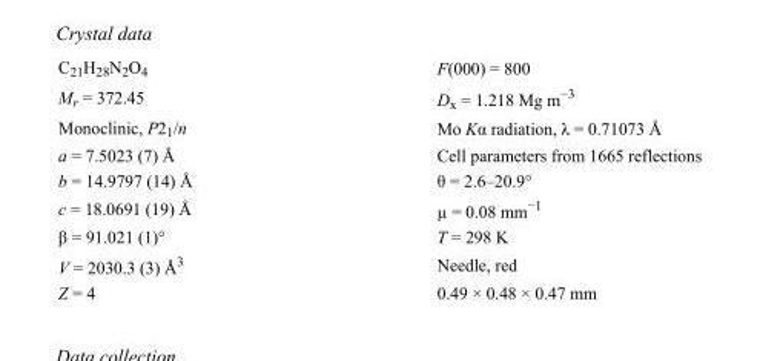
<table><tbody><tr><td>C<sub>21</sub>H<sub>28</sub>N<sub>2</sub>O<sub>4</sub></td><td>F(000) = 800</td></tr><tr><td>M<sub>r</sub> = 372.45</td><td>D<sub>x</sub> = 1.218 Mg m<sup>−3</sup></td></tr><tr><td>Monoclinic, P2<sub>1</sub>/n</td><td>Mo Kα radiation, λ = 0.71073 Å</td></tr><tr><td>a = 7.5023 (7) Å</td><td>Cell parameters from 1665 reflections</td></tr><tr><td>b = 14.9797 (14) Å</td><td>θ = 2.6–20.9°</td></tr><tr><td>c = 18.0691 (19) Å</td><td>µ = 0.08 mm<sup>−1</sup></td></tr><tr><td>β = 91.021 (1)°</td><td>T = 298 K</td></tr><tr><td>V = 2030.3 (3) Å<sup>3</sup></td><td>Needle, red</td></tr><tr><td>Z = 4</td><td>0.49 × 0.48 × 0.47 mm</td></tr></tbody></table>